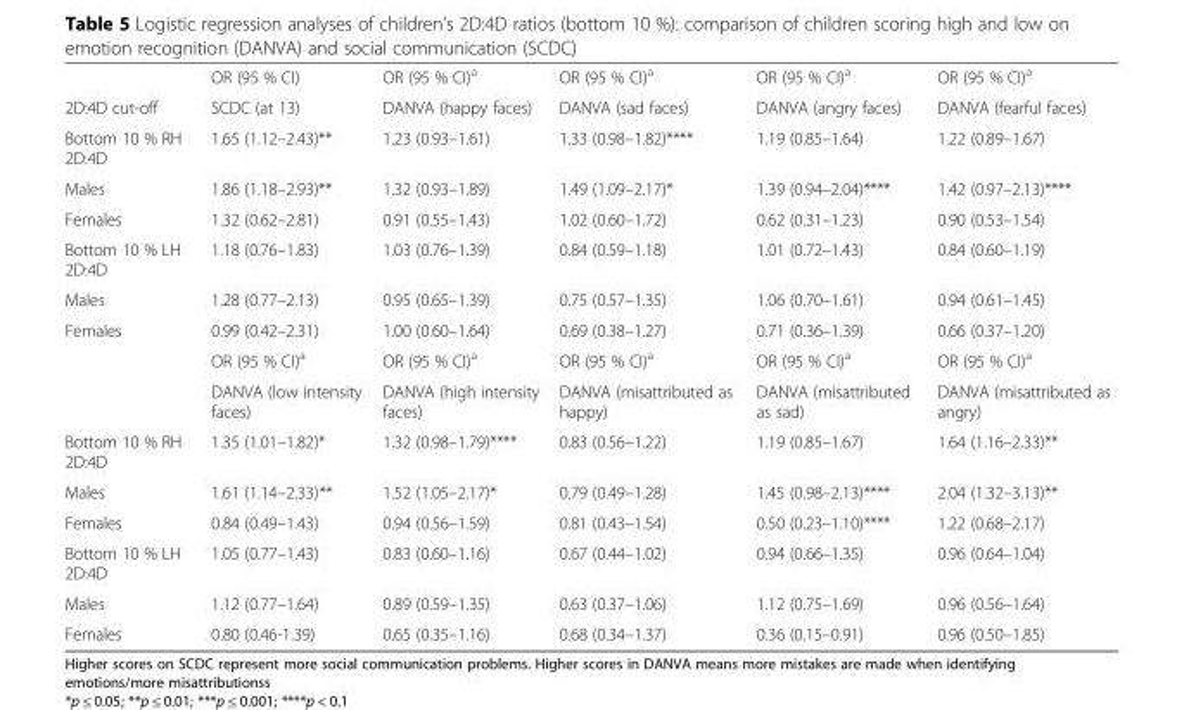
<table><thead><tr><td></td><td>OR (95 % CI)</td><td>OR (95 % CI)<sup>a</sup></td><td>OR (95 % CI)<sup>a</sup></td><td>OR (95 % CI)<sup>a</sup></td><td>OR (95 % CI)<sup>a</sup></td></tr></thead><tbody><tr><td>2D:4D cut-off</td><td>SCDC (at 13)</td><td>DANVA (happy faces)</td><td>DANVA (sad faces)</td><td>DANVA (angry faces)</td><td>DANVA (fearful faces)</td></tr><tr><td>Bottom 10 % RH 2D:4D</td><td>1.65 (1.12–2.43)**</td><td>1.23 (0.93–1.61)</td><td>1.33 (0.98–1.82)****</td><td>1.19 (0.85–1.64)</td><td>1.22 (0.89–1.67)</td></tr><tr><td>Males</td><td>1.86 (1.18–2.93)**</td><td>1.32 (0.93–1.89)</td><td>1.49 (1.09–2.17)*</td><td>1.39 (0.94–2.04)****</td><td>1.42 (0.97–2.13)****</td></tr><tr><td>Females</td><td>1.32 (0.62–2.81)</td><td>0.91 (0.55–1.43)</td><td>1.02 (0.60–1.72)</td><td>0.62 (0.31–1.23)</td><td>0.90 (0.53–1.54)</td></tr><tr><td>Bottom 10 % LH 2D:4D</td><td>1.18 (0.76–1.83)</td><td>1.03 (0.76–1.39)</td><td>0.84 (0.59–1.18)</td><td>1.01 (0.72–1.43)</td><td>0.84 (0.60–1.19)</td></tr><tr><td>Males</td><td>1.28 (0.77–2.13)</td><td>0.95 (0.65–1.39)</td><td>0.75 (0.57–1.35)</td><td>1.06 (0.70–1.61)</td><td>0.94 (0.61–1.45)</td></tr><tr><td rowspan="3">Females</td><td>0.99 (0.42–2.31)</td><td>1.00 (0.60–1.64)</td><td>0.69 (0.38–1.27)</td><td>0.71 (0.36–1.39)</td><td>0.66 (0.37–1.20)</td></tr><tr><td>OR (95 % CI)<sup>a</sup></td><td>OR (95 % CI)<sup>a</sup></td><td>OR (95 % CI)<sup>a</sup></td><td>OR (95 % CI)<sup>a</sup></td><td>OR (95 % CI)<sup>a</sup></td></tr><tr><td>DANVA (low intensity faces)</td><td>DANVA (high intensity faces)</td><td>DANVA (misattributed as happy)</td><td>DANVA (misattributed as sad)</td><td>DANVA (misattributed as angry)</td></tr><tr><td>Bottom 10 % RH 2D:4D</td><td>1.35 (1.01–1.82)*</td><td>1.32 (0.98–1.79)****</td><td>0.83 (0.56–1.22)</td><td>1.19 (0.85–1.67)</td><td>1.64 (1.16–2.33)**</td></tr><tr><td>Males</td><td>1.61 (1.14–2.33)**</td><td>1.52 (1.05–2.17)*</td><td>0.79 (0.49–1.28)</td><td>1.45 (0.98–2.13)****</td><td>2.04 (1.32–3.13)**</td></tr><tr><td>Females</td><td>0.84 (0.49–1.43)</td><td>0.94 (0.56–1.59)</td><td>0.81 (0.43–1.54)</td><td>0.50 (0.23–1.10)****</td><td>1.22 (0.68–2.17)</td></tr><tr><td>Bottom 10 % LH 2D:4D</td><td>1.05 (0.77–1.43)</td><td>0.83 (0.60–1.16)</td><td>0.67 (0.44–1.02)</td><td>0.94 (0.66–1.35)</td><td>0.96 (0.64–1.04)</td></tr><tr><td>Males</td><td>1.12 (0.77–1.64)</td><td>0.89 (0.59–1.35)</td><td>0.63 (0.37–1.06)</td><td>1.12 (0.75–1.69)</td><td>0.96 (0.56–1.64)</td></tr><tr><td>Females</td><td>0.80 (0.46-1.39)</td><td>0.65 (0.35–1.16)</td><td>0.68 (0.34–1.37)</td><td>0.36 (0.15–0.91)</td><td>0.96 (0.50–1.85)</td></tr></tbody></table>